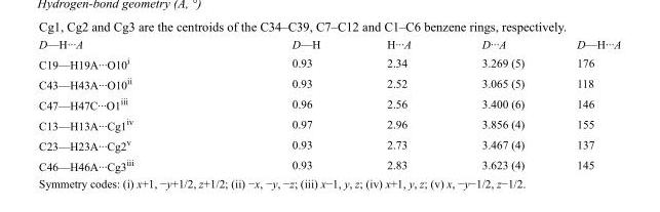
<table><tbody><tr><td>D—H···A</td><td>D—H</td><td>H···A</td><td>D···A</td><td>D—H···A</td></tr><tr><td>C19—H19A···O10<sup>i</sup></td><td>0.93</td><td>2.34</td><td>3.269 (5)</td><td>176</td></tr><tr><td>C43—H43A···O10<sup>ii</sup></td><td>0.93</td><td>2.52</td><td>3.065 (5)</td><td>118</td></tr><tr><td>C47—H47C···O1<sup>iii</sup></td><td>0.96</td><td>2.56</td><td>3.400 (6)</td><td>146</td></tr><tr><td>C13—H13A···Cg1<sup>iv</sup></td><td>0.97</td><td>2.96</td><td>3.856 (4)</td><td>155</td></tr><tr><td>C23—H23A···Cg2<sup>v</sup></td><td>0.93</td><td>2.73</td><td>3.467 (4)</td><td>137</td></tr><tr><td>C46—H46A···Cg3<sup>iii</sup></td><td>0.93</td><td>2.83</td><td>3.623 (4)</td><td>145</td></tr></tbody></table>